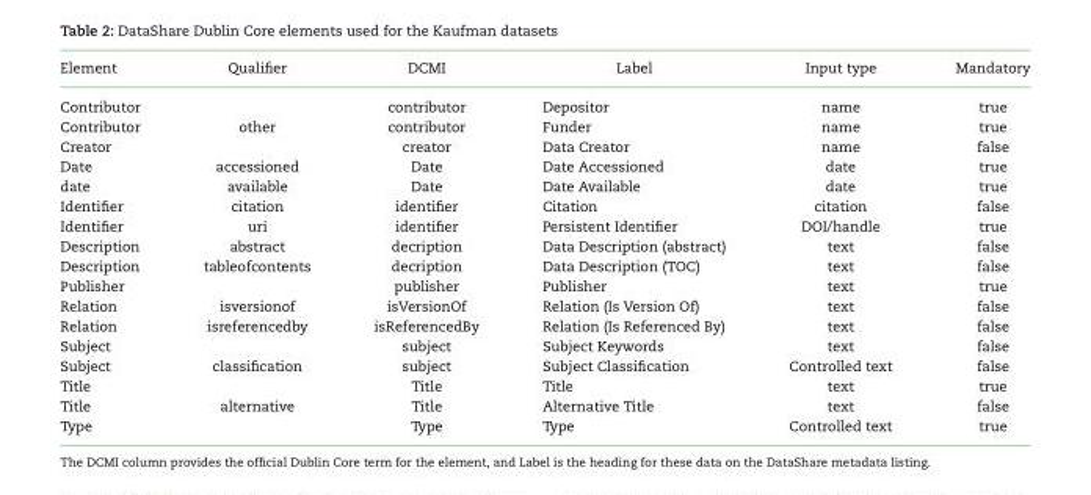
<table><thead><tr><td>Element</td><td>Qualifier</td><td>DCMI</td><td>Label</td><td>Input type</td><td>Mandatory</td></tr></thead><tbody><tr><td>Contributor</td><td></td><td>contributor</td><td>Depositor</td><td>name</td><td>true</td></tr><tr><td>Contributor</td><td>other</td><td>contributor</td><td>Funder</td><td>name</td><td>true</td></tr><tr><td>Creator</td><td></td><td>creator</td><td>Data Creator</td><td>name</td><td>false</td></tr><tr><td>Date</td><td>accessioned</td><td>Date</td><td>Date Accessioned</td><td>date</td><td>true</td></tr><tr><td>date</td><td>available</td><td>Date</td><td>Date Available</td><td>date</td><td>true</td></tr><tr><td>Identifier</td><td>citation</td><td>identifier</td><td>Citation</td><td>citation</td><td>false</td></tr><tr><td>Identifier</td><td>uri</td><td>identifier</td><td>Persistent Identifier</td><td>DOI/handle</td><td>true</td></tr><tr><td>Description</td><td>abstract</td><td>decription</td><td>Data Description (abstract)</td><td>text</td><td>false</td></tr><tr><td>Description</td><td>tableofcontents</td><td>decription</td><td>Data Description (TOC)</td><td>text</td><td>false</td></tr><tr><td>Publisher</td><td></td><td>publisher</td><td>Publisher</td><td>text</td><td>true</td></tr><tr><td>Relation</td><td>isversionof</td><td>isVersionOf</td><td>Relation (Is Version Of)</td><td>text</td><td>false</td></tr><tr><td>Relation</td><td>isreferencedby</td><td>isReferencedBy</td><td>Relation (Is Referenced By)</td><td>text</td><td>false</td></tr><tr><td>Subject</td><td></td><td>subject</td><td>Subject Keywords</td><td>text</td><td>false</td></tr><tr><td>Subject</td><td>classification</td><td>subject</td><td>Subject Classification</td><td>Controlled text</td><td>false</td></tr><tr><td>Title</td><td></td><td>Title</td><td>Title</td><td>text</td><td>true</td></tr><tr><td>Title</td><td>alternative</td><td>Title</td><td>Alternative Title</td><td>text</td><td>false</td></tr><tr><td>Type</td><td></td><td>Type</td><td>Type</td><td>Controlled text</td><td>true</td></tr></tbody></table>